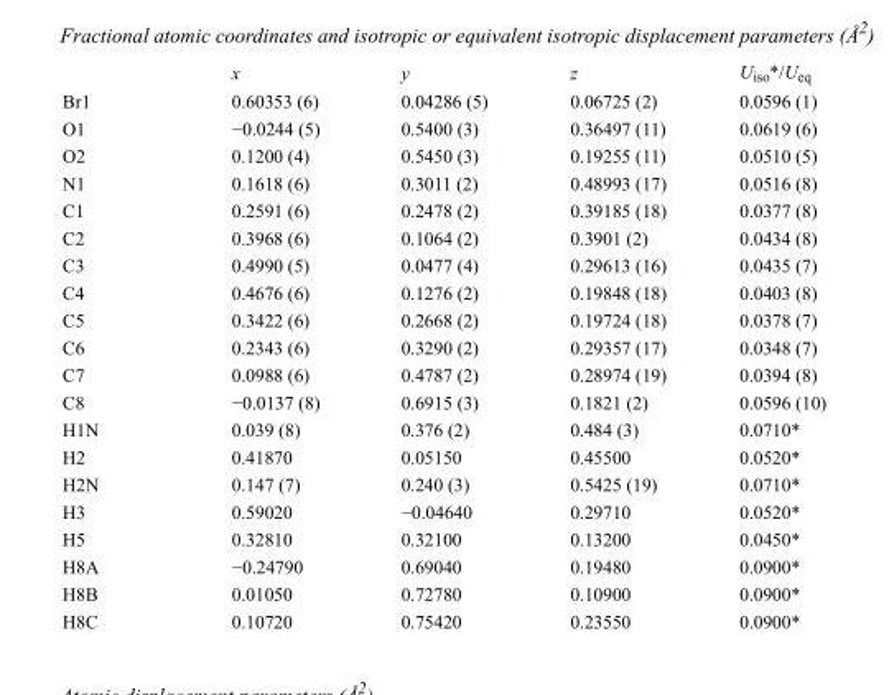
<table><thead><tr><td></td><td>x</td><td>y</td><td>z</td><td>U<sub>iso</sub>*/U<sub>eq</sub></td></tr></thead><tbody><tr><td>Br1</td><td>0.60353 (6)</td><td>0.04286 (5)</td><td>0.06725 (2)</td><td>0.0596 (1)</td></tr><tr><td>O1</td><td>−0.0244 (5)</td><td>0.5400 (3)</td><td>0.36497 (11)</td><td>0.0619 (6)</td></tr><tr><td>O2</td><td>0.1200 (4)</td><td>0.5450 (3)</td><td>0.19255 (11)</td><td>0.0510 (5)</td></tr><tr><td>N1</td><td>0.1618 (6)</td><td>0.3011 (2)</td><td>0.48993 (17)</td><td>0.0516 (8)</td></tr><tr><td>C1</td><td>0.2591 (6)</td><td>0.2478 (2)</td><td>0.39185 (18)</td><td>0.0377 (8)</td></tr><tr><td>C2</td><td>0.3968 (6)</td><td>0.1064 (2)</td><td>0.3901 (2)</td><td>0.0434 (8)</td></tr><tr><td>C3</td><td>0.4990 (5)</td><td>0.0477 (4)</td><td>0.29613 (16)</td><td>0.0435 (7)</td></tr><tr><td>C4</td><td>0.4676 (6)</td><td>0.1276 (2)</td><td>0.19848 (18)</td><td>0.0403 (8)</td></tr><tr><td>C5</td><td>0.3422 (6)</td><td>0.2668 (2)</td><td>0.19724 (18)</td><td>0.0378 (7)</td></tr><tr><td>C6</td><td>0.2343 (6)</td><td>0.3290 (2)</td><td>0.29357 (17)</td><td>0.0348 (7)</td></tr><tr><td>C7</td><td>0.0988 (6)</td><td>0.4787 (2)</td><td>0.28974 (19)</td><td>0.0394 (8)</td></tr><tr><td>C8</td><td>−0.0137 (8)</td><td>0.6915 (3)</td><td>0.1821 (2)</td><td>0.0596 (10)</td></tr><tr><td>H1N</td><td>0.039 (8)</td><td>0.376 (2)</td><td>0.484 (3)</td><td>0.0710*</td></tr><tr><td>H2</td><td>0.41870</td><td>0.05150</td><td>0.45500</td><td>0.0520*</td></tr><tr><td>H2N</td><td>0.147 (7)</td><td>0.240 (3)</td><td>0.5425 (19)</td><td>0.0710*</td></tr><tr><td>H3</td><td>0.59020</td><td>−0.04640</td><td>0.29710</td><td>0.0520*</td></tr><tr><td>H5</td><td>0.32810</td><td>0.32100</td><td>0.13200</td><td>0.0450*</td></tr><tr><td>H8A</td><td>−0.24790</td><td>0.69040</td><td>0.19480</td><td>0.0900*</td></tr><tr><td>H8B</td><td>0.01050</td><td>0.72780</td><td>0.10900</td><td>0.0900*</td></tr><tr><td>H8C</td><td>0.10720</td><td>0.75420</td><td>0.23550</td><td>0.0900*</td></tr></tbody></table>